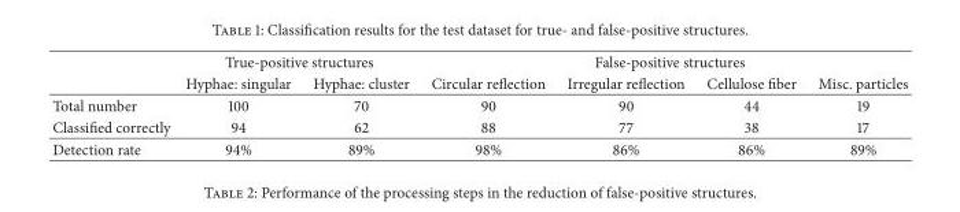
<table><thead><tr><td rowspan="2"></td><td colspan="2">True-positive structures</td><td colspan="4">False-positive structures</td></tr><tr><td>Hyphae: singular</td><td>Hyphae: cluster</td><td>Circular reflection</td><td>Irregular reflection</td><td>Cellulose fiber</td><td>Misc. particles</td></tr></thead><tbody><tr><td>Total number</td><td>100</td><td>70</td><td>90</td><td>90</td><td>44</td><td>19</td></tr><tr><td>Classified correctly</td><td>94</td><td>62</td><td>88</td><td>77</td><td>38</td><td>17</td></tr><tr><td>Detection rate</td><td>94%</td><td>89%</td><td>98%</td><td>86%</td><td>86%</td><td>89%</td></tr></tbody></table>